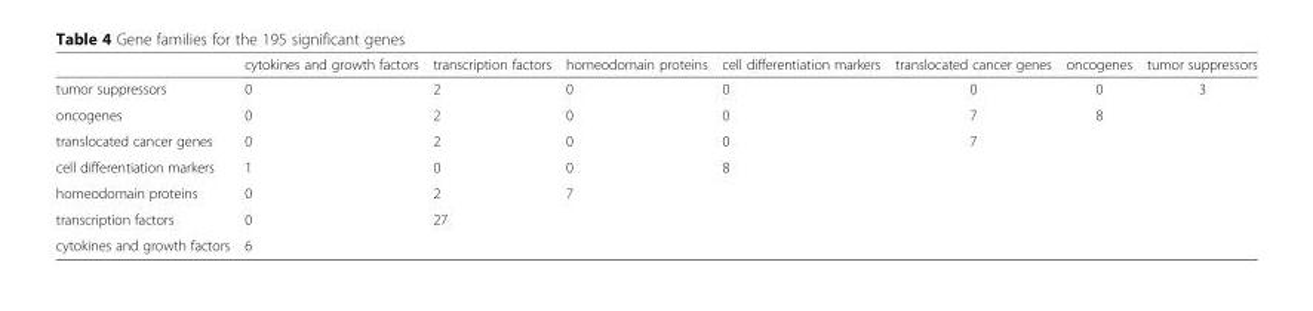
<table><thead><tr><td></td><td>cytokines and growth factors</td><td>transcription factors</td><td>homeodomain proteins</td><td>cell differentiation markers</td><td>translocated cancer genes</td><td>oncogenes</td><td>tumor suppressors</td></tr></thead><tbody><tr><td>tumor suppressors</td><td>0</td><td>2</td><td>0</td><td>0</td><td>0</td><td>0</td><td>3</td></tr><tr><td>oncogenes</td><td>0</td><td>2</td><td>0</td><td>0</td><td>7</td><td>8</td><td></td></tr><tr><td>translocated cancer genes</td><td>0</td><td>2</td><td>0</td><td>0</td><td>7</td><td></td><td></td></tr><tr><td>cell differentiation markers</td><td>1</td><td>0</td><td>0</td><td>8</td><td></td><td></td><td></td></tr><tr><td>homeodomain proteins</td><td>0</td><td>2</td><td>7</td><td></td><td></td><td></td><td></td></tr><tr><td>transcription factors</td><td>0</td><td>27</td><td></td><td></td><td></td><td></td><td></td></tr><tr><td>cytokines and growth factors</td><td>6</td><td></td><td></td><td></td><td></td><td></td><td></td></tr></tbody></table>